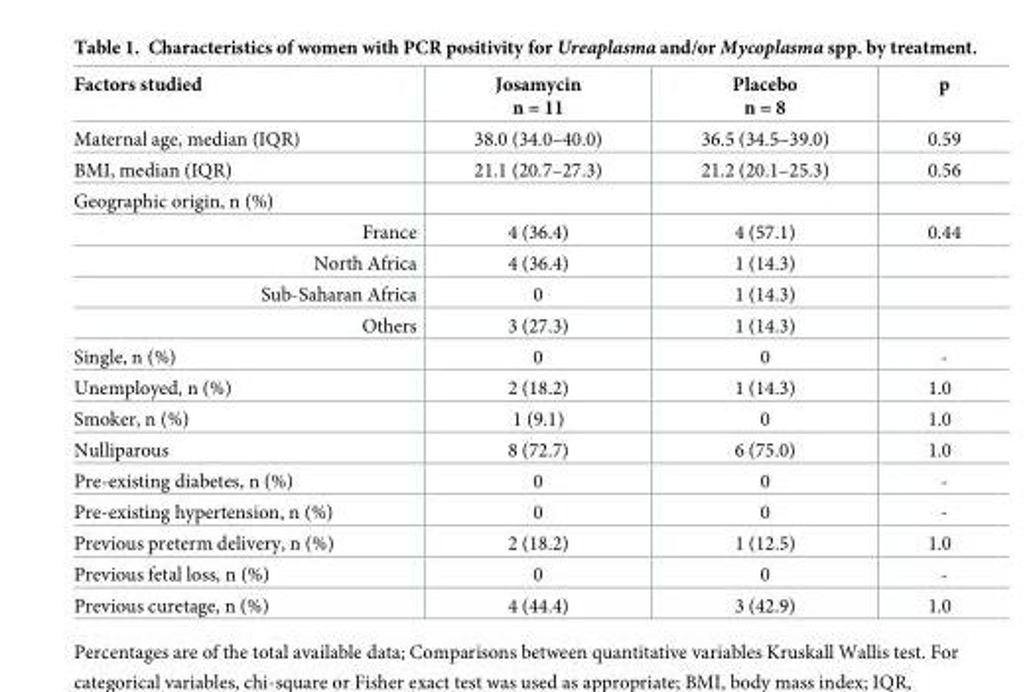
<table><thead><tr><td>Factors studied</td><td>Josamycin n = 11</td><td>Placebo n = 8</td><td>p</td></tr></thead><tbody><tr><td>Maternal age, median (IQR)</td><td>38.0 (34.0–40.0)</td><td>36.5 (34.5–39.0)</td><td>0.59</td></tr><tr><td>BMI, median (IQR)</td><td>21.1 (20.7–27.3)</td><td>21.2 (20.1–25.3)</td><td>0.56</td></tr><tr><td colspan="4">Geographic origin, n (%)</td></tr><tr><td>France</td><td>4 (36.4)</td><td>4 (57.1)</td><td>0.44</td></tr><tr><td>North Africa</td><td>4 (36.4)</td><td>1 (14.3)</td><td></td></tr><tr><td>Sub-Saharan Africa</td><td>0</td><td>1 (14.3)</td><td></td></tr><tr><td>Others</td><td>3 (27.3)</td><td>1 (14.3)</td><td></td></tr><tr><td>Single, n (%)</td><td>0</td><td>0</td><td>-</td></tr><tr><td>Unemployed, n (%)</td><td>2 (18.2)</td><td>1 (14.3)</td><td>1.0</td></tr><tr><td>Smoker, n (%)</td><td>1 (9.1)</td><td>0</td><td>1.0</td></tr><tr><td>Nulliparous</td><td>8 (72.7)</td><td>6 (75.0)</td><td>1.0</td></tr><tr><td>Pre-existing diabetes, n (%)</td><td>0</td><td>0</td><td>-</td></tr><tr><td>Pre-existing hypertension, n (%)</td><td>0</td><td>0</td><td>-</td></tr><tr><td>Previous preterm delivery, n (%)</td><td>2 (18.2)</td><td>1 (12.5)</td><td>1.0</td></tr><tr><td>Previous fetal loss, n (%)</td><td>0</td><td>0</td><td>-</td></tr><tr><td>Previous curetage, n (%)</td><td>4 (44.4)</td><td>3 (42.9)</td><td>1.0</td></tr></tbody></table>